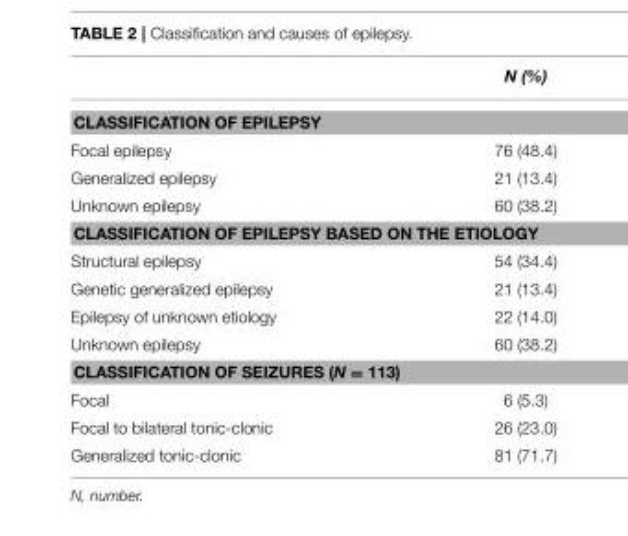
<table><thead><tr><td></td><td>N (%)</td></tr></thead><tbody><tr><td colspan="2">CLASSIFICATION OF EPILEPSY</td></tr><tr><td>Focal epilepsy</td><td>76 (48.4)</td></tr><tr><td>Generalized epilepsy</td><td>21 (13.4)</td></tr><tr><td>Unknown epilepsy</td><td>60 (38.2)</td></tr><tr><td colspan="2">CLASSIFICATION OF EPILEPSY BASED ON THE ETIOLOGY</td></tr><tr><td>Structural epilepsy</td><td>54 (34.4)</td></tr><tr><td>Genetic generalized epilepsy</td><td>21 (13.4)</td></tr><tr><td>Epilepsy of unknown etiology</td><td>22 (14.0)</td></tr><tr><td>Unknown epilepsy</td><td>60 (38.2)</td></tr><tr><td colspan="2">CLASSIFICATION OF SEIZURES (N = 113)</td></tr><tr><td>Focal</td><td>6 (5.3)</td></tr><tr><td>Focal to bilateral tonic-clonic</td><td>26 (23.0)</td></tr><tr><td>Generalized tonic-clonic</td><td>81 (71.7)</td></tr></tbody></table>